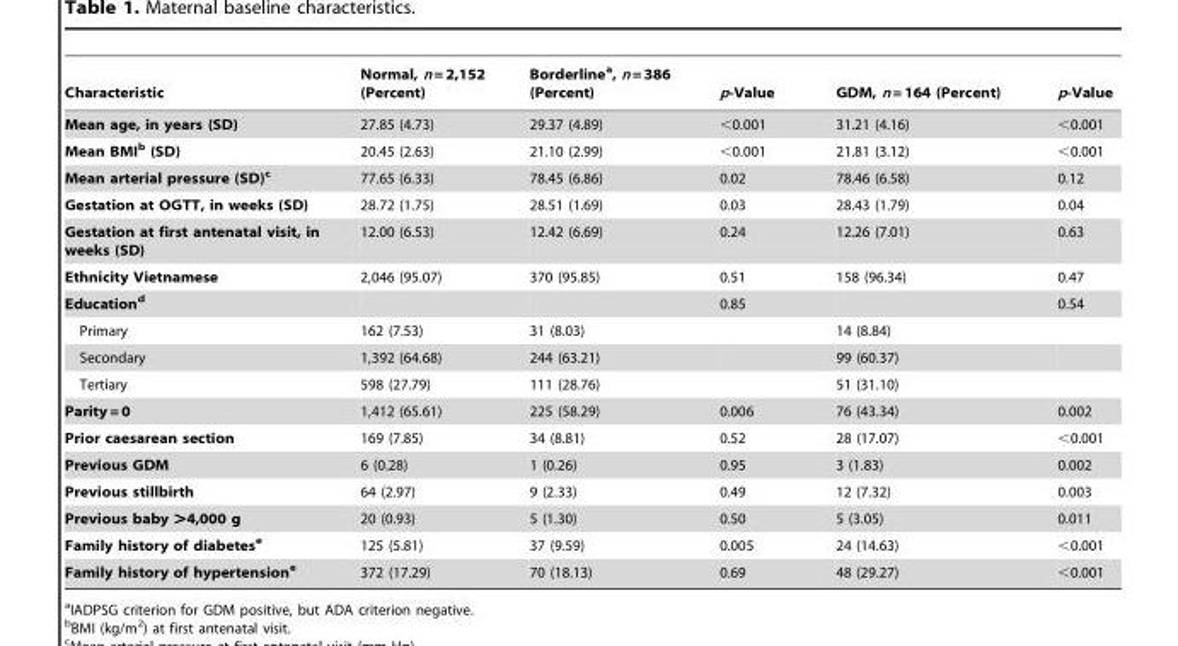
<table><thead><tr><td>Characteristic</td><td>Normal, n = 2,152 (Percent)</td><td>Borderline<sup>a</sup>, n = 386 (Percent)</td><td>p-Value</td><td>GDM, n = 164 (Percent)</td><td>p-Value</td></tr></thead><tbody><tr><td>Mean age, in years (SD)</td><td>27.85 (4.73)</td><td>29.37 (4.89)</td><td>&lt;0.001</td><td>31.21 (4.16)</td><td>&lt;0.001</td></tr><tr><td>Mean BMIb (SD)</td><td>20.45 (2.63)</td><td>21.10 (2.99)</td><td>&lt;0.001</td><td>21.81 (3.12)</td><td>&lt;0.001</td></tr><tr><td>Mean arterial pressure (SD)c</td><td>77.65 (6.33)</td><td>78.45 (6.86)</td><td>0.02</td><td>78.46 (6.58)</td><td>0.12</td></tr><tr><td>Gestation at OGTT, in weeks (SD)</td><td>28.72 (1.75)</td><td>28.51 (1.69)</td><td>0.03</td><td>28.43 (1.79)</td><td>0.04</td></tr><tr><td>Gestation at first antenatal visit, in weeks (SD)</td><td>12.00 (6.53)</td><td>12.42 (6.69)</td><td>0.24</td><td>12.26 (7.01)</td><td>0.63</td></tr><tr><td>Ethnicity Vietnamese</td><td>2,046 (95.07)</td><td>370 (95.85)</td><td>0.51</td><td>158 (96.34)</td><td>0.47</td></tr><tr><td>Educationd</td><td></td><td></td><td>0.85</td><td></td><td>0.54</td></tr><tr><td>Primary</td><td>162 (7.53)</td><td>31 (8.03)</td><td></td><td>14 (8.84)</td><td></td></tr><tr><td>Secondary</td><td>1,392 (64.68)</td><td>244 (63.21)</td><td></td><td>99 (60.37)</td><td></td></tr><tr><td>Tertiary</td><td>598 (27.79)</td><td>111 (28.76)</td><td></td><td>51 (31.10)</td><td></td></tr><tr><td>Parity = 0</td><td>1,412 (65.61)</td><td>225 (58.29)</td><td>0.006</td><td>76 (43.34)</td><td>0.002</td></tr><tr><td>Prior caesarean section</td><td>169 (7.85)</td><td>34 (8.81)</td><td>0.52</td><td>28 (17.07)</td><td>&lt;0.001</td></tr><tr><td>Previous GDM</td><td>6 (0.28)</td><td>1 (0.26)</td><td>0.95</td><td>3 (1.83)</td><td>0.002</td></tr><tr><td>Previous stillbirth</td><td>64 (2.97)</td><td>9 (2.33)</td><td>0.49</td><td>12 (7.32)</td><td>0.003</td></tr><tr><td>Previous baby &gt;4,000 g</td><td>20 (0.93)</td><td>5 (1.30)</td><td>0.50</td><td>5 (3.05)</td><td>0.011</td></tr><tr><td>Family history of diabetese</td><td>125 (5.81)</td><td>37 (9.59)</td><td>0.005</td><td>24 (14.63)</td><td>&lt;0.001</td></tr><tr><td>Family history of hypertensione</td><td>372 (17.29)</td><td>70 (18.13)</td><td>0.69</td><td>48 (29.27)</td><td>&lt;0.001</td></tr></tbody></table>